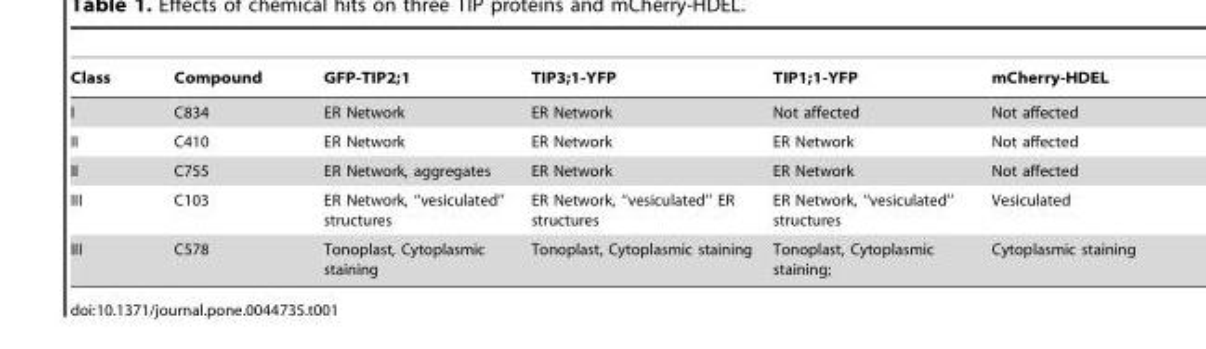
<table><thead><tr><td>Class</td><td>Compound</td><td>GFP-TIP2;1</td><td>TIP3;1-YFP</td><td>TIP1;1-YFP</td><td>mCherry-HDEL</td></tr></thead><tbody><tr><td>I</td><td>C834</td><td>ER Network</td><td>ER Network</td><td>Not affected</td><td>Not affected</td></tr><tr><td>II</td><td>C410</td><td>ER Network</td><td>ER Network</td><td>ER Network</td><td>Not affected</td></tr><tr><td>II</td><td>C755</td><td>ER Network, aggregates</td><td>ER Network</td><td>ER Network</td><td>Not affected</td></tr><tr><td>III</td><td>C103</td><td>ER Network, ‘‘vesiculated’’ structures</td><td>ER Network, ‘‘vesiculated’’ ER structures</td><td>ER Network, ‘‘vesiculated’’ structures</td><td>Vesiculated</td></tr><tr><td>III</td><td>C578</td><td>Tonoplast, Cytoplasmic staining</td><td>Tonoplast, Cytoplasmic staining</td><td>Tonoplast, Cytoplasmic staining;</td><td>Cytoplasmic staining</td></tr></tbody></table>